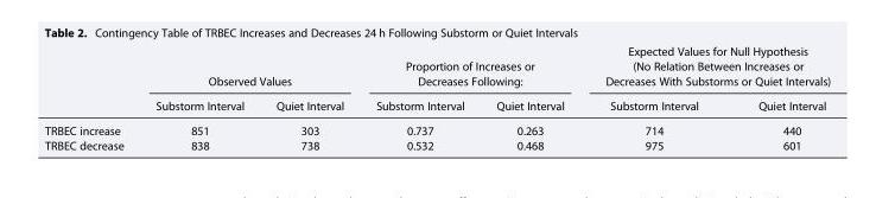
<table><thead><tr><td rowspan="2"></td><td colspan="2">Observed Values</td><td colspan="2">Proportion of Increases or Decreases Following:</td><td colspan="2">Expected Values for Null Hypothesis (No Relation Between Increases or Decreases With Substorms or Quiet Intervals)</td></tr><tr><td>Substorm Interval</td><td>Quiet Interval</td><td>Substorm Interval</td><td>Quiet Interval</td><td>Substorm Interval</td><td>Quiet Interval</td></tr></thead><tbody><tr><td>TRBEC increase</td><td>851</td><td>303</td><td>0.737</td><td>0.263</td><td>714</td><td>440</td></tr><tr><td>TRBEC decrease</td><td>838</td><td>738</td><td>0.532</td><td>0.468</td><td>975</td><td>601</td></tr></tbody></table>